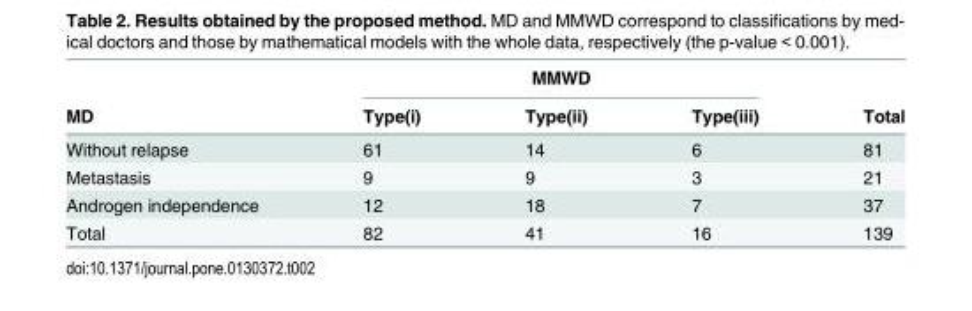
<table><thead><tr><td rowspan="2">MD</td><td colspan="3">MMWD</td><td rowspan="2">Total</td></tr><tr><td>Type(i)</td><td>Type(ii)</td><td>Type(iii)</td></tr></thead><tbody><tr><td>Without relapse</td><td>61</td><td>14</td><td>6</td><td>81</td></tr><tr><td>Metastasis</td><td>9</td><td>9</td><td>3</td><td>21</td></tr><tr><td>Androgen independence</td><td>12</td><td>18</td><td>7</td><td>37</td></tr><tr><td>Total</td><td>82</td><td>41</td><td>16</td><td>139</td></tr></tbody></table>